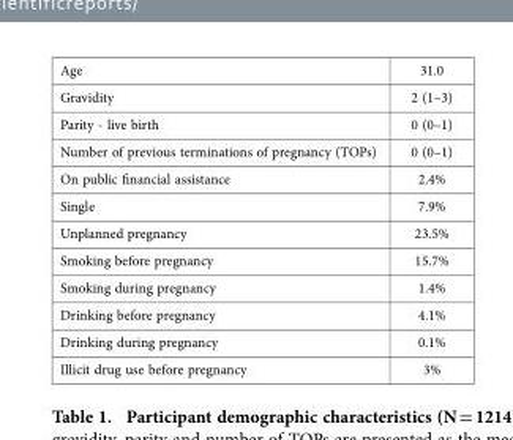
<table><thead><tr><td>Age</td><td>31.0</td></tr></thead><tbody><tr><td>Gravidity</td><td>2 (1–3)</td></tr><tr><td>Parity - live birth</td><td>0 (0–1)</td></tr><tr><td>Number of previous terminations of pregnancy (TOPs)</td><td>0 (0–1)</td></tr><tr><td>On public financial assistance</td><td>2.4%</td></tr><tr><td>Single</td><td>7.9%</td></tr><tr><td>Unplanned pregnancy</td><td>23.5%</td></tr><tr><td>Smoking before pregnancy</td><td>15.7%</td></tr><tr><td>Smoking during pregnancy</td><td>1.4%</td></tr><tr><td>Drinking before pregnancy</td><td>4.1%</td></tr><tr><td>Drinking during pregnancy</td><td>0.1%</td></tr><tr><td>Illicit drug use before pregnancy</td><td>3%</td></tr></tbody></table>